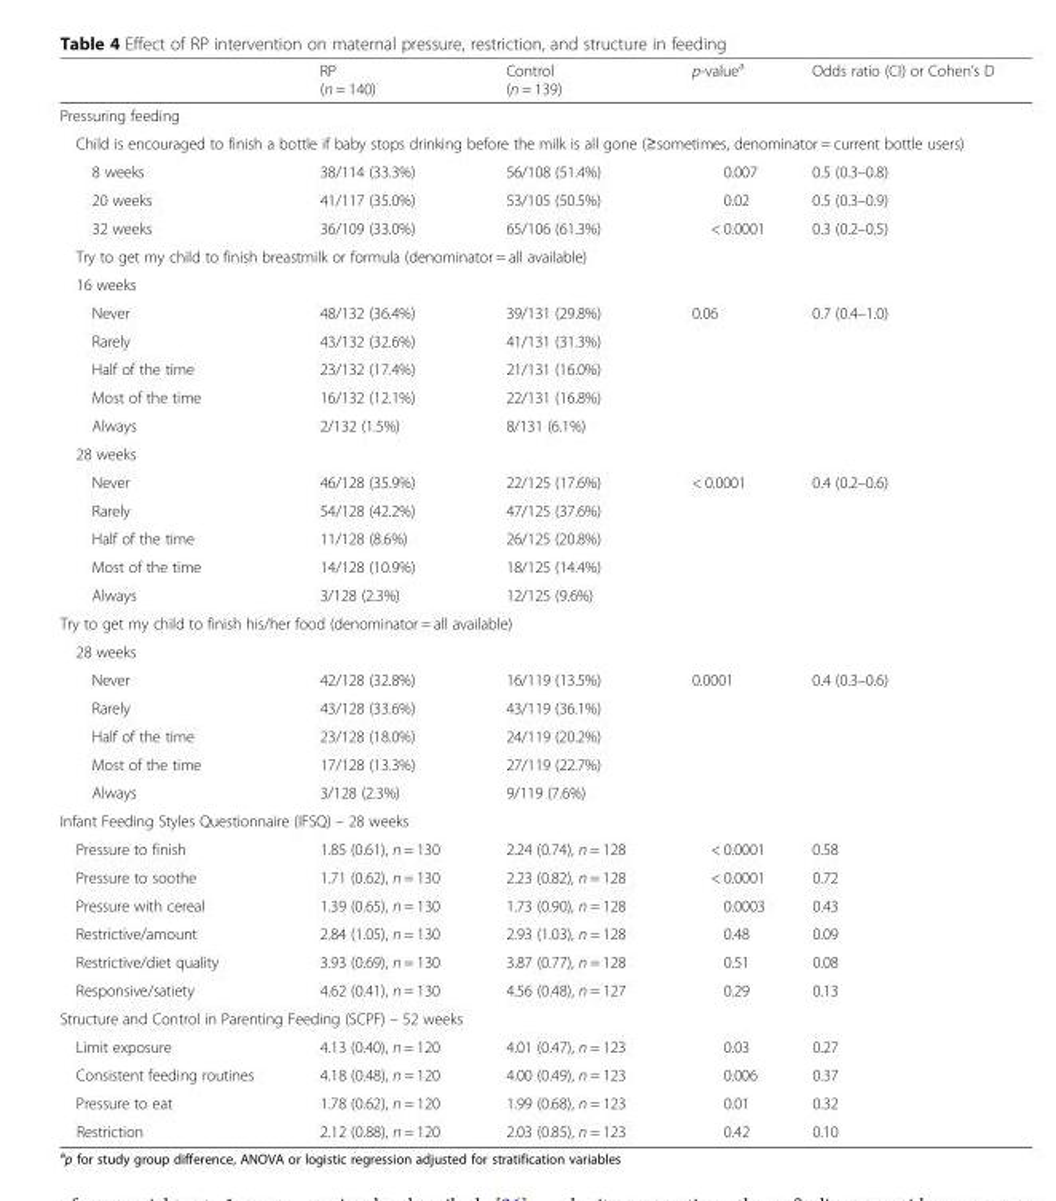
<table><thead><tr><td></td><td>RP (n = 140)</td><td>Control (n = 139)</td><td>p-value<sup>a</sup></td><td>Odds ratio (CI) or Cohen’s D</td></tr></thead><tbody><tr><td colspan="5">Pressuring feeding</td></tr><tr><td colspan="5">Child is encouraged to finish a bottle if baby stops drinking before the milk is all gone (≥sometimes, denominator = current bottle users)</td></tr><tr><td>8 weeks</td><td>38/114 (33.3%)</td><td>56/108 (51.4%)</td><td>0.007</td><td>0.5 (0.3–0.8)</td></tr><tr><td>20 weeks</td><td>41/117 (35.0%)</td><td>53/105 (50.5%)</td><td>0.02</td><td>0.5 (0.3–0.9)</td></tr><tr><td>32 weeks</td><td>36/109 (33.0%)</td><td>65/106 (61.3%)</td><td>&lt; 0.0001</td><td>0.3 (0.2–0.5)</td></tr><tr><td colspan="5">Try to get my child to finish breastmilk or formula (denominator = all available)</td></tr><tr><td colspan="5">16 weeks</td></tr><tr><td>Never</td><td>48/132 (36.4%)</td><td>39/131 (29.8%)</td><td rowspan="5">0.06</td><td rowspan="5">0.7 (0.4–1.0)</td></tr><tr><td>Rarely</td><td>43/132 (32.6%)</td><td>41/131 (31.3%)</td></tr><tr><td>Half of the time</td><td>23/132 (17.4%)</td><td>21/131 (16.0%)</td></tr><tr><td>Most of the time</td><td>16/132 (12.1%)</td><td>22/131 (16.8%)</td></tr><tr><td>Always</td><td>2/132 (1.5%)</td><td>8/131 (6.1%)</td></tr><tr><td colspan="5">28 weeks</td></tr><tr><td>Never</td><td>46/128 (35.9%)</td><td>22/125 (17.6%)</td><td rowspan="5">&lt; 0.0001</td><td rowspan="5">0.4 (0.2–0.6)</td></tr><tr><td>Rarely</td><td>54/128 (42.2%)</td><td>47/125 (37.6%)</td></tr><tr><td>Half of the time</td><td>11/128 (8.6%)</td><td>26/125 (20.8%)</td></tr><tr><td>Most of the time</td><td>14/128 (10.9%)</td><td>18/125 (14.4%)</td></tr><tr><td>Always</td><td>3/128 (2.3%)</td><td>12/125 (9.6%)</td></tr><tr><td colspan="5">Try to get my child to finish his/her food (denominator = all available)</td></tr><tr><td colspan="5">28 weeks</td></tr><tr><td>Never</td><td>42/128 (32.8%)</td><td>16/119 (13.5%)</td><td rowspan="5">0.0001</td><td rowspan="5">0.4 (0.3–0.6)</td></tr><tr><td>Rarely</td><td>43/128 (33.6%)</td><td>43/119 (36.1%)</td></tr><tr><td>Half of the time</td><td>23/128 (18.0%)</td><td>24/119 (20.2%)</td></tr><tr><td>Most of the time</td><td>17/128 (13.3%)</td><td>27/119 (22.7%)</td></tr><tr><td>Always</td><td>3/128 (2.3%)</td><td>9/119 (7.6%)</td></tr><tr><td colspan="5">Infant Feeding Styles Questionnaire (IFSQ) – 28 weeks</td></tr><tr><td>Pressure to finish</td><td>1.85 (0.61), n = 130</td><td>2.24 (0.74), n = 128</td><td>&lt; 0.0001</td><td>0.58</td></tr><tr><td>Pressure to soothe</td><td>1.71 (0.62), n = 130</td><td>2.23 (0.82), n = 128</td><td>&lt; 0.0001</td><td>0.72</td></tr><tr><td>Pressure with cereal</td><td>1.39 (0.65), n = 130</td><td>1.73 (0.90), n = 128</td><td>0.0003</td><td>0.43</td></tr><tr><td>Restrictive/amount</td><td>2.84 (1.05), n = 130</td><td>2.93 (1.03), n = 128</td><td>0.48</td><td>0.09</td></tr><tr><td>Restrictive/diet quality</td><td>3.93 (0.69), n = 130</td><td>3.87 (0.77), n = 128</td><td>0.51</td><td>0.08</td></tr><tr><td>Responsive/satiety</td><td>4.62 (0.41), n = 130</td><td>4.56 (0.48), n = 127</td><td>0.29</td><td>0.13</td></tr><tr><td colspan="5">Structure and Control in Parenting Feeding (SCPF) – 52 weeks</td></tr><tr><td>Limit exposure</td><td>4.13 (0.40), n = 120</td><td>4.01 (0.47), n = 123</td><td>0.03</td><td>0.27</td></tr><tr><td>Consistent feeding routines</td><td>4.18 (0.48), n = 120</td><td>4.00 (0.49), n = 123</td><td>0.006</td><td>0.37</td></tr><tr><td>Pressure to eat</td><td>1.78 (0.62), n = 120</td><td>1.99 (0.68), n = 123</td><td>0.01</td><td>0.32</td></tr><tr><td>Restriction</td><td>2.12 (0.88), n = 120</td><td>2.03 (0.85), n = 123</td><td>0.42</td><td>0.10</td></tr></tbody></table>